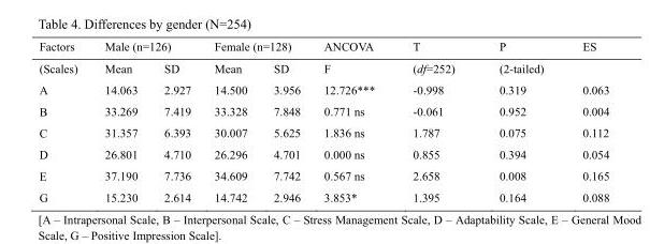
<table><thead><tr><td rowspan="2">Factors (Scales)</td><td colspan="2">Male (n=126)</td><td colspan="2">Female (n=128)</td><td rowspan="2">ANCOVA F</td><td rowspan="2">T (df=252)</td><td rowspan="2">P (2-tailed)</td><td rowspan="2">ES</td></tr><tr><td>Mean</td><td>SD</td><td>Mean</td><td>SD</td></tr></thead><tbody><tr><td>A</td><td>14.063</td><td>2.927</td><td>14.500</td><td>3.956</td><td>12.726***</td><td>-0.998</td><td>0.319</td><td>0.063</td></tr><tr><td>B</td><td>33.269</td><td>7.419</td><td>33.328</td><td>7.848</td><td>0.771 ns</td><td>-0.061</td><td>0.952</td><td>0.004</td></tr><tr><td>C</td><td>31.357</td><td>6.393</td><td>30.007</td><td>5.625</td><td>1.836 ns</td><td>1.787</td><td>0.075</td><td>0.112</td></tr><tr><td>D</td><td>26.801</td><td>4.710</td><td>26.296</td><td>4.701</td><td>0.000 ns</td><td>0.855</td><td>0.394</td><td>0.054</td></tr><tr><td>E</td><td>37.190</td><td>7.736</td><td>34.609</td><td>7.742</td><td>0.567 ns</td><td>2.658</td><td>0.008</td><td>0.165</td></tr><tr><td>G</td><td>15.230</td><td>2.614</td><td>14.742</td><td>2.946</td><td>3.853*</td><td>1.395</td><td>0.164</td><td>0.088</td></tr></tbody></table>